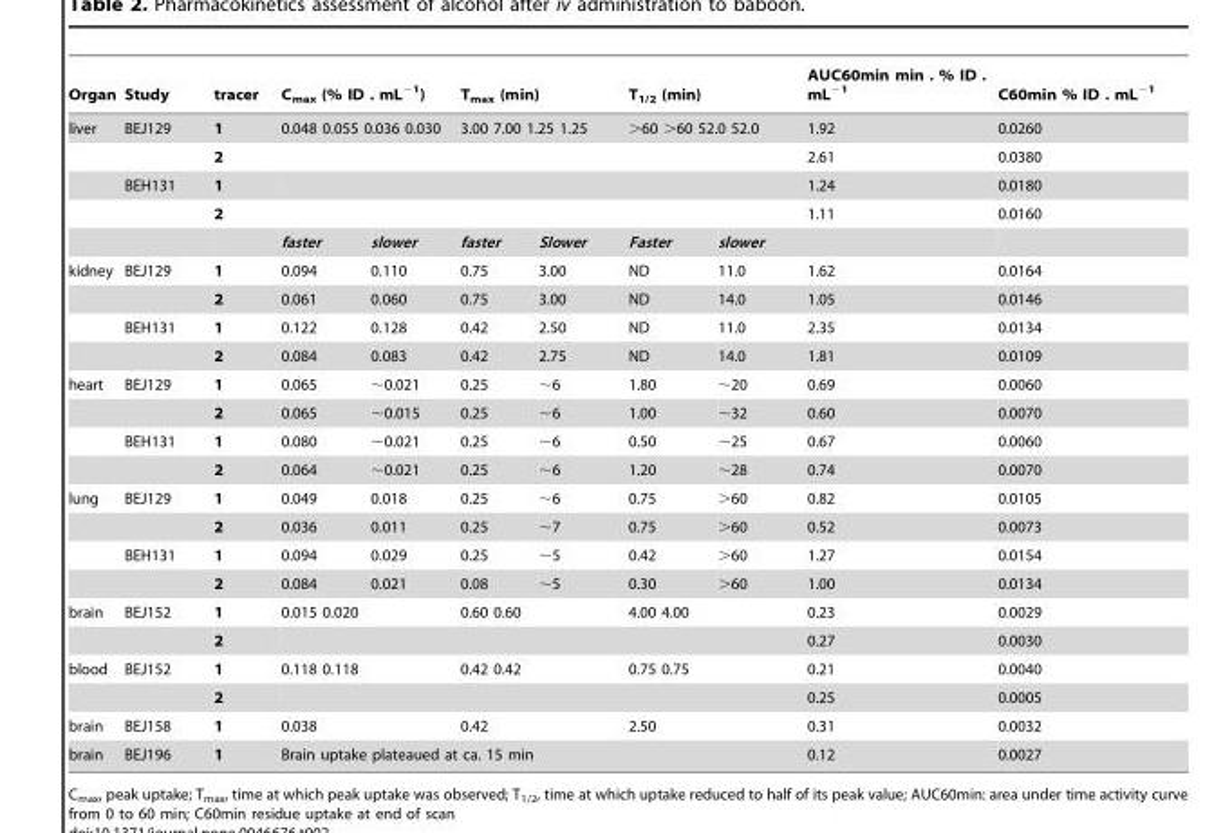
<table><thead><tr><td>Organ</td><td>Study</td><td>tracer</td><td colspan="2">C<sub>max</sub> (% ID . mL<sup>−1</sup>)</td><td colspan="2">T<sub>max</sub> (min)</td><td colspan="2">T<sub>1/2</sub> (min)</td><td>AUC60min min . % ID . mL<sup>−1</sup></td><td>C60min % ID . mL<sup>−1</sup></td></tr></thead><tbody><tr><td rowspan="5">liver</td><td>BEJ129</td><td>1</td><td colspan="2">0.048 0.055 0.036 0.030</td><td colspan="2">3.00 7.00 1.25 1.25</td><td colspan="2">&gt;60 &gt;60 52.0 52.0</td><td>1.92</td><td>0.0260</td></tr><tr><td></td><td>2</td><td colspan="2"></td><td colspan="2"></td><td colspan="2"></td><td>2.61</td><td>0.0380</td></tr><tr><td>BEH131</td><td>1</td><td colspan="2"></td><td colspan="2"></td><td colspan="2"></td><td>1.24</td><td>0.0180</td></tr><tr><td></td><td>2</td><td colspan="2"></td><td colspan="2"></td><td colspan="2"></td><td>1.11</td><td>0.0160</td></tr><tr><td></td><td></td><td>faster</td><td>slower</td><td>faster</td><td>Slower</td><td>Faster</td><td>slower</td><td></td><td></td></tr><tr><td rowspan="4">kidney</td><td>BEJ129</td><td>1</td><td>0.094</td><td>0.110</td><td>0.75</td><td>3.00</td><td>ND</td><td>11.0</td><td>1.62</td><td>0.0164</td></tr><tr><td></td><td>2</td><td>0.061</td><td>0.060</td><td>0.75</td><td>3.00</td><td>ND</td><td>14.0</td><td>1.05</td><td>0.0146</td></tr><tr><td>BEH131</td><td>1</td><td>0.122</td><td>0.128</td><td>0.42</td><td>2.50</td><td>ND</td><td>11.0</td><td>2.35</td><td>0.0134</td></tr><tr><td></td><td>2</td><td>0.084</td><td>0.083</td><td>0.42</td><td>2.75</td><td>ND</td><td>14.0</td><td>1.81</td><td>0.0109</td></tr><tr><td rowspan="4">heart</td><td>BEJ129</td><td>1</td><td>0.065</td><td>∼0.021</td><td>0.25</td><td>∼6</td><td>1.80</td><td>∼20</td><td>0.69</td><td>0.0060</td></tr><tr><td></td><td>2</td><td>0.065</td><td>∼0.015</td><td>0.25</td><td>∼6</td><td>1.00</td><td>∼32</td><td>0.60</td><td>0.0070</td></tr><tr><td>BEH131</td><td>1</td><td>0.080</td><td>∼0.021</td><td>0.25</td><td>∼6</td><td>0.50</td><td>∼25</td><td>0.67</td><td>0.0060</td></tr><tr><td></td><td>2</td><td>0.064</td><td>∼0.021</td><td>0.25</td><td>∼6</td><td>1.20</td><td>∼28</td><td>0.74</td><td>0.0070</td></tr><tr><td rowspan="4">lung</td><td>BEJ129</td><td>1</td><td>0.049</td><td>0.018</td><td>0.25</td><td>∼6</td><td>0.75</td><td>&gt;60</td><td>0.82</td><td>0.0105</td></tr><tr><td></td><td>2</td><td>0.036</td><td>0.011</td><td>0.25</td><td>∼7</td><td>0.75</td><td>&gt;60</td><td>0.52</td><td>0.0073</td></tr><tr><td>BEH131</td><td>1</td><td>0.094</td><td>0.029</td><td>0.25</td><td>∼5</td><td>0.42</td><td>&gt;60</td><td>1.27</td><td>0.0154</td></tr><tr><td></td><td>2</td><td>0.084</td><td>0.021</td><td>0.08</td><td>∼5</td><td>0.30</td><td>&gt;60</td><td>1.00</td><td>0.0134</td></tr><tr><td rowspan="2">brain</td><td>BEJ152</td><td>1</td><td colspan="2">0.015 0.020</td><td colspan="2">0.60 0.60</td><td colspan="2">4.00 4.00</td><td>0.23</td><td>0.0029</td></tr><tr><td></td><td>2</td><td colspan="2"></td><td colspan="2"></td><td colspan="2"></td><td>0.27</td><td>0.0030</td></tr><tr><td rowspan="2">blood</td><td>BEJ152</td><td>1</td><td colspan="2">0.118 0.118</td><td colspan="2">0.42 0.42</td><td colspan="2">0.75 0.75</td><td>0.21</td><td>0.0040</td></tr><tr><td></td><td>2</td><td colspan="2"></td><td colspan="2"></td><td colspan="2"></td><td>0.25</td><td>0.0005</td></tr><tr><td>brain</td><td>BEJ158</td><td>1</td><td colspan="2">0.038</td><td colspan="2">0.42</td><td colspan="2">2.50</td><td>0.31</td><td>0.0032</td></tr><tr><td>brain</td><td>BEJ196</td><td>1</td><td colspan="6">Brain uptake plateaued at ca. 15 min</td><td>0.12</td><td>0.0027</td></tr></tbody></table>